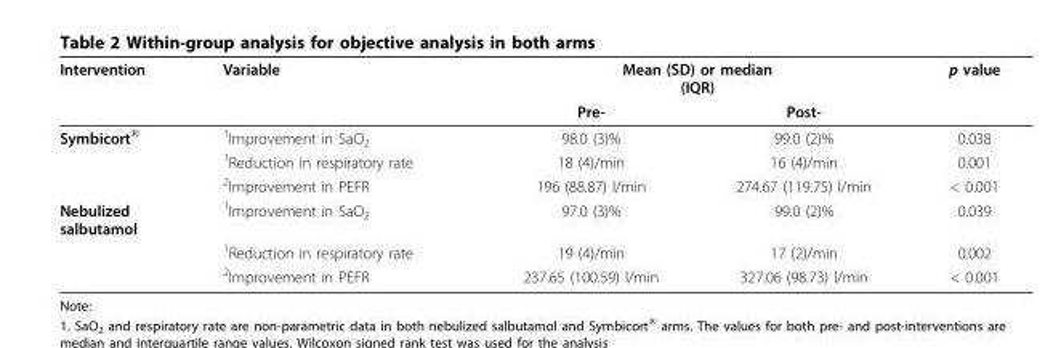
<table><thead><tr><td rowspan="2">Intervention</td><td rowspan="2">Variable</td><td colspan="2">Mean (SD) or median (IQR)</td><td rowspan="2">p value</td></tr><tr><td>Pre-</td><td>Post-</td></tr></thead><tbody><tr><td rowspan="3">Symbicort<sup>®</sup></td><td><sup>1</sup>Improvement in SaO<sub>2</sub></td><td>98.0 (3)%</td><td>99.0 (2)%</td><td>0.038</td></tr><tr><td><sup>1</sup>Reduction in respiratory rate</td><td>18 (4)/min</td><td>16 (4)/min</td><td>0.001</td></tr><tr><td><sup>2</sup>Improvement in PEFR</td><td>196 (88.87) l/min</td><td>274.67 (119.75) l/min</td><td>&lt; 0.001</td></tr><tr><td rowspan="3">Nebulized salbutamol</td><td><sup>1</sup>Improvement in SaO<sub>2</sub></td><td>97.0 (3)%</td><td>99.0 (2)%</td><td>0.039</td></tr><tr><td><sup>1</sup>Reduction in respiratory rate</td><td>19 (4)/min</td><td>17 (2)/min</td><td>0.002</td></tr><tr><td><sup>2</sup>Improvement in PEFR</td><td>237.65 (100.59) l/min</td><td>327.06 (98.73) l/min</td><td>&lt; 0.001</td></tr></tbody></table>